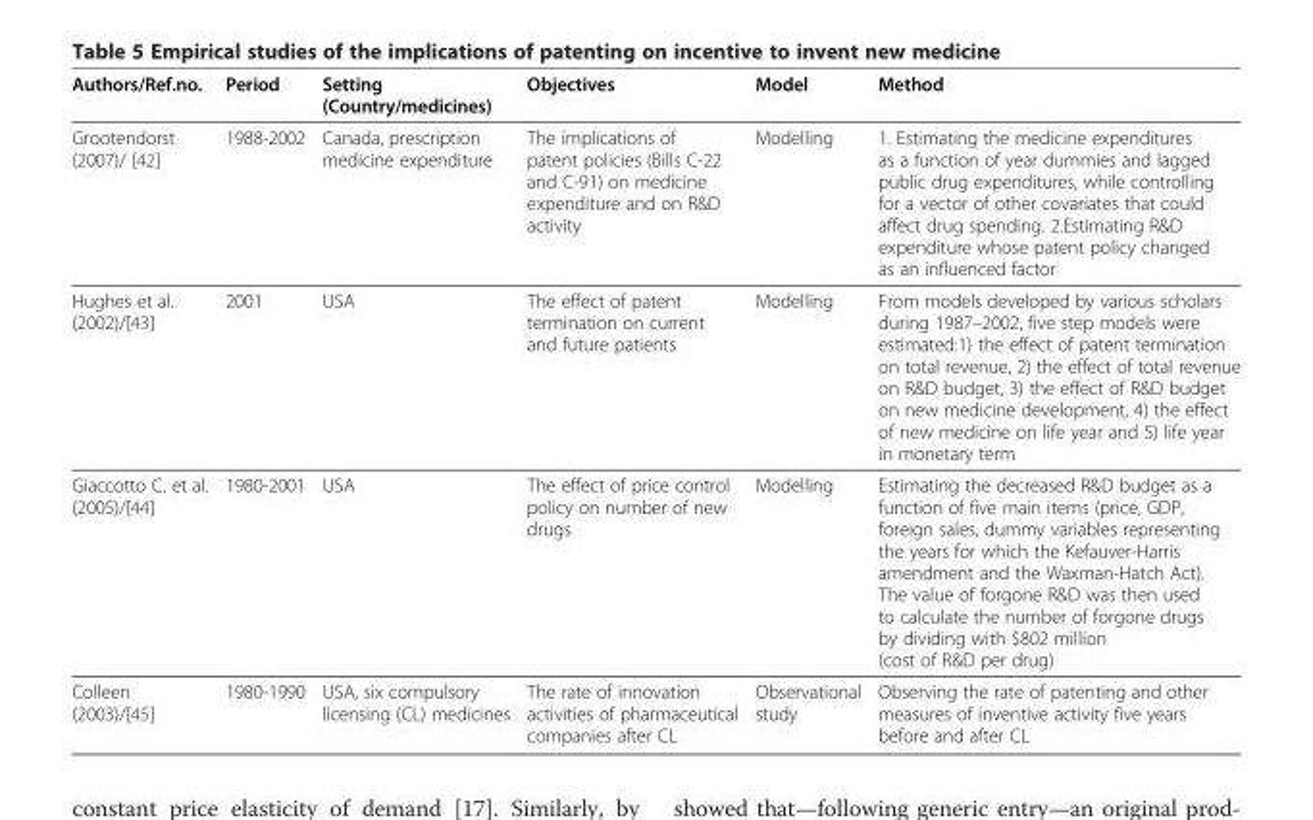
<table><thead><tr><td>Authors/Ref.no.</td><td>Period</td><td>Setting (Country/medicines)</td><td>Objectives</td><td>Model</td><td>Method</td></tr></thead><tbody><tr><td>Grootendorst (2007)/ [42]</td><td>1988-2002</td><td>Canada, prescription medicine expenditure</td><td>The implications of patent policies (Bills C-22 and C-91) on medicine expenditure and on R&amp;D activity</td><td>Modelling</td><td>1. Estimating the medicine expenditures as a function of year dummies and lagged public drug expenditures, while controlling for a vector of other covariates that could affect drug spending. 2.Estimating R&amp;D expenditure whose patent policy changed as an influenced factor</td></tr><tr><td>Hughes et al. (2002)/[43]</td><td>2001</td><td>USA</td><td>The effect of patent termination on current and future patients</td><td>Modelling</td><td>From models developed by various scholars during 1987–2002, five step models were estimated:1) the effect of patent termination on total revenue, 2) the effect of total revenue on R&amp;D budget, 3) the effect of R&amp;D budget on new medicine development, 4) the effect of new medicine on life year and 5) life year in monetary term</td></tr><tr><td>Giaccotto C. et al. (2005)/[44]</td><td>1980-2001</td><td>USA</td><td>The effect of price control policy on number of new drugs</td><td>Modelling</td><td>Estimating the decreased R&amp;D budget as a function of five main items (price, GDP, foreign sales, dummy variables representing the years for which the Kefauver-Harris amendment and the Waxman-Hatch Act). The value of forgone R&amp;D was then used to calculate the number of forgone drugs by dividing with $802 million (cost of R&amp;D per drug)</td></tr><tr><td>Colleen (2003)/[45]</td><td>1980-1990</td><td>USA, six compulsory licensing (CL) medicines</td><td>The rate of innovation activities of pharmaceutical companies after CL</td><td>Observational study</td><td>Observing the rate of patenting and other measures of inventive activity five years before and after CL</td></tr></tbody></table>